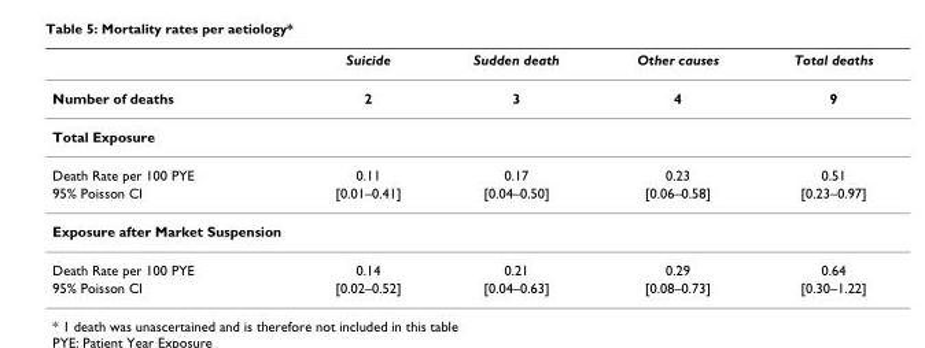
<table><thead><tr><td></td><td>Suicide</td><td>Sudden death</td><td>Other causes</td><td>Total deaths</td></tr></thead><tbody><tr><td>Number of deaths</td><td>2</td><td>3</td><td>4</td><td>9</td></tr><tr><td colspan="5">Total Exposure</td></tr><tr><td>Death Rate per 100 PYE</td><td>0.11</td><td>0.17</td><td>0.23</td><td>0.51</td></tr><tr><td>95% Poisson CI</td><td>[0.01–0.41]</td><td>[0.04–0.50]</td><td>[0.06–0.58]</td><td>[0.23–0.97]</td></tr><tr><td colspan="5">Exposure after Market Suspension</td></tr><tr><td>Death Rate per 100 PYE</td><td>0.14</td><td>0.21</td><td>0.29</td><td>0.64</td></tr><tr><td>95% Poisson CI</td><td>[0.02–0.52]</td><td>[0.04–0.63]</td><td>[0.08–0.73]</td><td>[0.30–1.22]</td></tr></tbody></table>